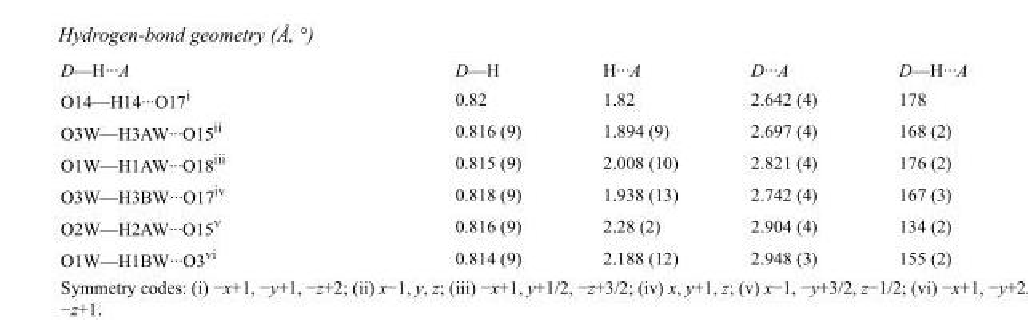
<table><tbody><tr><td>D—H···A</td><td>D—H</td><td>H···A</td><td>D···A</td><td>D—H···A</td></tr><tr><td>O14—H14···O17<sup>i</sup></td><td>0.82</td><td>1.82</td><td>2.642 (4)</td><td>178</td></tr><tr><td>O3W—H3AW···O15<sup>ii</sup></td><td>0.816 (9)</td><td>1.894 (9)</td><td>2.697 (4)</td><td>168 (2)</td></tr><tr><td>O1W—H1AW···O18<sup>iii</sup></td><td>0.815 (9)</td><td>2.008 (10)</td><td>2.821 (4)</td><td>176 (2)</td></tr><tr><td>O3W—H3BW···O17<sup>iv</sup></td><td>0.818 (9)</td><td>1.938 (13)</td><td>2.742 (4)</td><td>167 (3)</td></tr><tr><td>O2W—H2AW···O15<sup>v</sup></td><td>0.816 (9)</td><td>2.28 (2)</td><td>2.904 (4)</td><td>134 (2)</td></tr><tr><td>O1W—H1BW···O3<sup>vi</sup></td><td>0.814 (9)</td><td>2.188 (12)</td><td>2.948 (3)</td><td>155 (2)</td></tr></tbody></table>